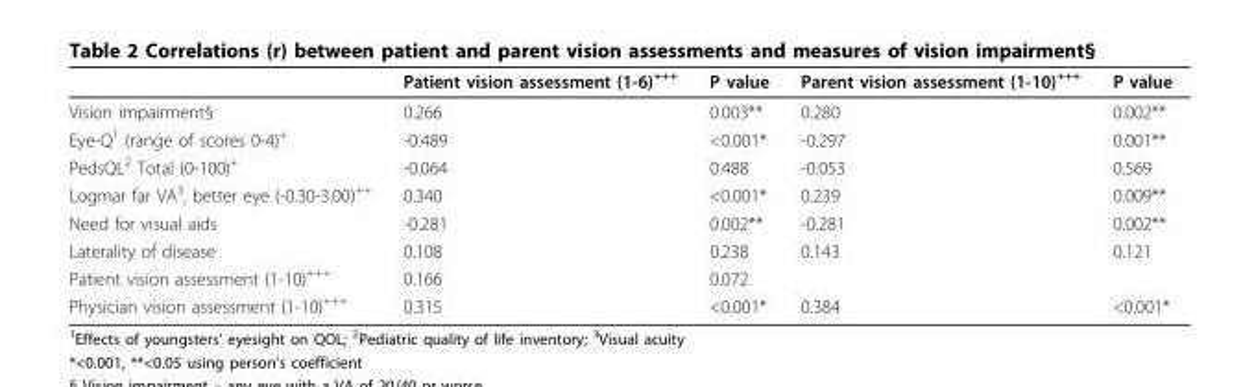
<table><thead><tr><td></td><td>Patient vision assessment (1-6)<sup>+++</sup></td><td>P value</td><td>Parent vision assessment (1-10)<sup>+++</sup></td><td>P value</td></tr></thead><tbody><tr><td>Vision impairment§</td><td>0.266</td><td>0.003**</td><td>0.280</td><td>0.002**</td></tr><tr><td>Eye-Q<sup>1</sup> (range of scores 0-4)<sup>+</sup></td><td>-0.489</td><td>&lt;0.001*</td><td>-0.297</td><td>0.001**</td></tr><tr><td>PedsQL<sup>2</sup> Total (0-100)<sup>+</sup></td><td>-0.064</td><td>0.488</td><td>-0.053</td><td>0.569</td></tr><tr><td>Logmar far VA<sup>3</sup>, better eye (-0.30-3.00)<sup>++</sup></td><td>0.340</td><td>&lt;0.001*</td><td>0.239</td><td>0.009**</td></tr><tr><td>Need for visual aids</td><td>-0.281</td><td>0.002**</td><td>-0.281</td><td>0.002**</td></tr><tr><td>Laterality of disease</td><td>0.108</td><td>0.238</td><td>0.143</td><td>0.121</td></tr><tr><td>Patient vision assessment (1-10)<sup>+++</sup></td><td>0.166</td><td>0.072</td><td></td><td></td></tr><tr><td>Physician vision assessment (1-10)<sup>+++</sup></td><td>0.315</td><td>&lt;0.001*</td><td>0.384</td><td>&lt;0.001*</td></tr></tbody></table>